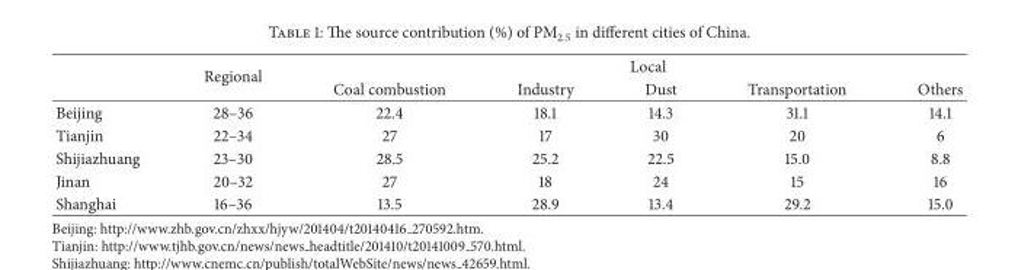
<table><thead><tr><td rowspan="2"></td><td rowspan="2">Regional</td><td colspan="5">Local</td></tr><tr><td>Coal combustion</td><td>Industry</td><td>Dust</td><td>Transportation</td><td>Others</td></tr></thead><tbody><tr><td>Beijing</td><td>28–36</td><td>22.4</td><td>18.1</td><td>14.3</td><td>31.1</td><td>14.1</td></tr><tr><td>Tianjin</td><td>22–34</td><td>27</td><td>17</td><td>30</td><td>20</td><td>6</td></tr><tr><td>Shijiazhuang</td><td>23–30</td><td>28.5</td><td>25.2</td><td>22.5</td><td>15.0</td><td>8.8</td></tr><tr><td>Jinan</td><td>20–32</td><td>27</td><td>18</td><td>24</td><td>15</td><td>16</td></tr><tr><td>Shanghai</td><td>16–36</td><td>13.5</td><td>28.9</td><td>13.4</td><td>29.2</td><td>15.0</td></tr></tbody></table>